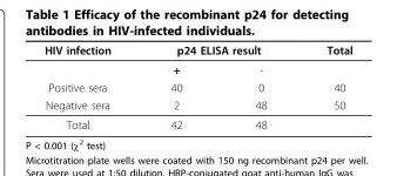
<table><thead><tr><td rowspan="2">HIV infection</td><td colspan="2">p24 ELISA result</td><td rowspan="2">Total</td></tr><tr><td>+</td><td>-</td></tr></thead><tbody><tr><td>Positive sera</td><td>40</td><td>0</td><td>40</td></tr><tr><td>Negative sera</td><td>2</td><td>48</td><td>50</td></tr><tr><td>Total</td><td>42</td><td>48</td><td></td></tr></tbody></table>